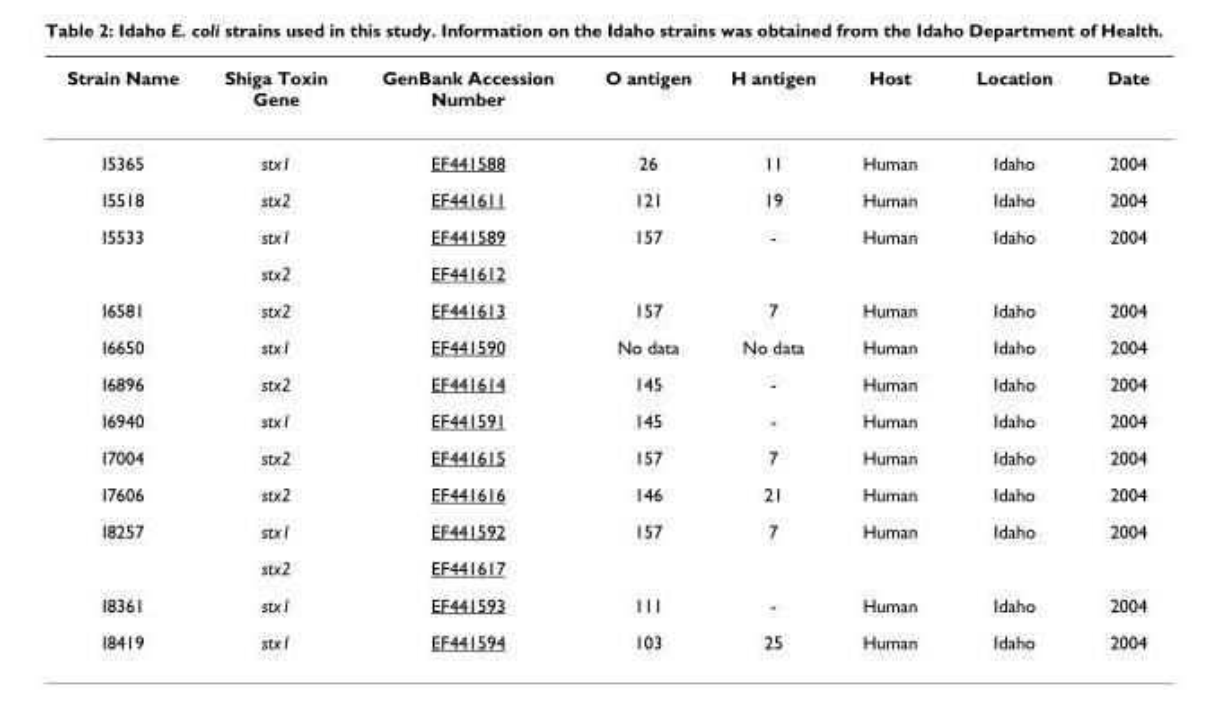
<table><thead><tr><td>Strain Name</td><td>Shiga Toxin Gene</td><td>GenBank Accession Number</td><td>O antigen</td><td>H antigen</td><td>Host</td><td>Location</td><td>Date</td></tr></thead><tbody><tr><td>I5365</td><td>stx1</td><td>EF441588</td><td>26</td><td>11</td><td>Human</td><td>Idaho</td><td>2004</td></tr><tr><td>I5518</td><td>stx2</td><td>EF441611</td><td>121</td><td>19</td><td>Human</td><td>Idaho</td><td>2004</td></tr><tr><td rowspan="2">I5533</td><td>stx1</td><td>EF441589</td><td>157</td><td>-</td><td>Human</td><td>Idaho</td><td>2004</td></tr><tr><td>stx2</td><td>EF441612</td><td></td><td></td><td></td><td></td><td></td></tr><tr><td>I6581</td><td>stx2</td><td>EF441613</td><td>157</td><td>7</td><td>Human</td><td>Idaho</td><td>2004</td></tr><tr><td>I6650</td><td>stx1</td><td>EF441590</td><td>No data</td><td>No data</td><td>Human</td><td>Idaho</td><td>2004</td></tr><tr><td>I6896</td><td>stx2</td><td>EF441614</td><td>145</td><td>-</td><td>Human</td><td>Idaho</td><td>2004</td></tr><tr><td>I6940</td><td>stx1</td><td>EF441591</td><td>145</td><td>-</td><td>Human</td><td>Idaho</td><td>2004</td></tr><tr><td>I7004</td><td>stx2</td><td>EF441615</td><td>157</td><td>7</td><td>Human</td><td>Idaho</td><td>2004</td></tr><tr><td>I7606</td><td>stx2</td><td>EF441616</td><td>146</td><td>21</td><td>Human</td><td>Idaho</td><td>2004</td></tr><tr><td rowspan="2">I8257</td><td>stx1</td><td>EF441592</td><td>157</td><td>7</td><td>Human</td><td>Idaho</td><td>2004</td></tr><tr><td>stx2</td><td>EF441617</td><td></td><td></td><td></td><td></td><td></td></tr><tr><td>I8361</td><td>stx1</td><td>EF441593</td><td>111</td><td>-</td><td>Human</td><td>Idaho</td><td>2004</td></tr><tr><td>I8419</td><td>stx1</td><td>EF441594</td><td>103</td><td>25</td><td>Human</td><td>Idaho</td><td>2004</td></tr></tbody></table>